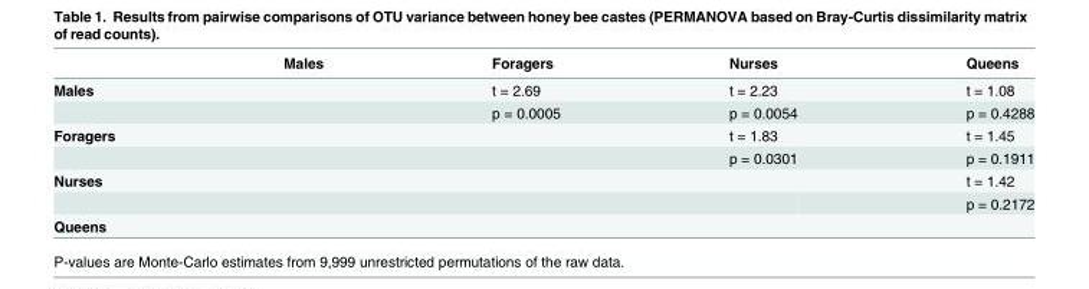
<table><thead><tr><td></td><td>Males</td><td>Foragers</td><td>Nurses</td><td>Queens</td></tr></thead><tbody><tr><td rowspan="2">Males</td><td></td><td>t = 2.69</td><td>t = 2.23</td><td>t = 1.08</td></tr><tr><td></td><td>p = 0.0005</td><td>p = 0.0054</td><td>p = 0.4288</td></tr><tr><td rowspan="2">Foragers</td><td></td><td></td><td>t = 1.83</td><td>t = 1.45</td></tr><tr><td></td><td></td><td>p = 0.0301</td><td>p = 0.1911</td></tr><tr><td rowspan="2">Nurses</td><td></td><td></td><td></td><td>t = 1.42</td></tr><tr><td></td><td></td><td></td><td>p = 0.2172</td></tr><tr><td>Queens</td><td></td><td></td><td></td><td></td></tr></tbody></table>